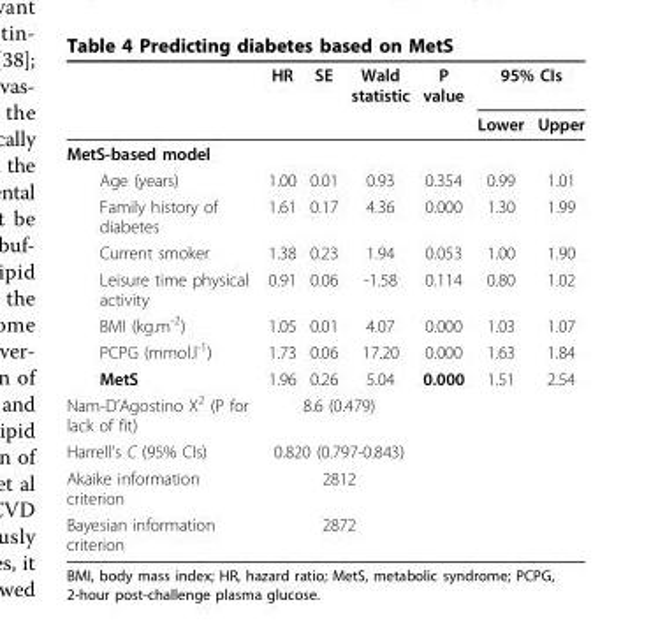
<table><thead><tr><td rowspan="2"></td><td rowspan="2">HR</td><td rowspan="2">SE</td><td rowspan="2">Wald statistic</td><td rowspan="2">P value</td><td colspan="2">95% CIs</td></tr><tr><td>Lower</td><td>Upper</td></tr></thead><tbody><tr><td colspan="7">MetS-based model</td></tr><tr><td>Age (years)</td><td>1.00</td><td>0.01</td><td>0.93</td><td>0.354</td><td>0.99</td><td>1.01</td></tr><tr><td>Family history of diabetes</td><td>1.61</td><td>0.17</td><td>4.36</td><td>0.000</td><td>1.30</td><td>1.99</td></tr><tr><td>Current smoker</td><td>1.38</td><td>0.23</td><td>1.94</td><td>0.053</td><td>1.00</td><td>1.90</td></tr><tr><td>Leisure time physical activity</td><td>0.91</td><td>0.06</td><td>-1.58</td><td>0.114</td><td>0.80</td><td>1.02</td></tr><tr><td>BMI (kg.m<sup>-2</sup>)</td><td>1.05</td><td>0.01</td><td>4.07</td><td>0.000</td><td>1.03</td><td>1.07</td></tr><tr><td>PCPG (mmol.l<sup>-1</sup>)</td><td>1.73</td><td>0.06</td><td>17.20</td><td>0.000</td><td>1.63</td><td>1.84</td></tr><tr><td>MetS</td><td>1.96</td><td>0.26</td><td>5.04</td><td>0.000</td><td>1.51</td><td>2.54</td></tr><tr><td>Nam-D’Agostino X<sup>2</sup> (P for lack of fit)</td><td colspan="3">8.6 (0.479)</td><td></td><td></td><td></td></tr><tr><td>Harrell’s C (95% CIs)</td><td colspan="3">0.820 (0.797-0.843)</td><td></td><td></td><td></td></tr><tr><td>Akaike information criterion</td><td colspan="3">2812</td><td></td><td></td><td></td></tr><tr><td>Bayesian information criterion</td><td colspan="3">2872</td><td></td><td></td><td></td></tr></tbody></table>